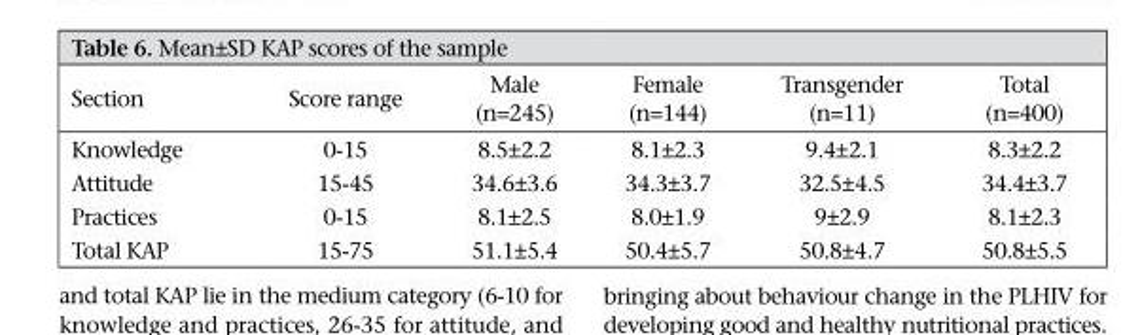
<table><thead><tr><td>Section</td><td>Score range</td><td>Male (n=245)</td><td>Female (n=144)</td><td>Transgender (n=11)</td><td>Total (n=400)</td></tr></thead><tbody><tr><td>Knowledge</td><td>0-15</td><td>8.5±2.2</td><td>8.1±2.3</td><td>9.4±2.1</td><td>8.3±2.2</td></tr><tr><td>Attitude</td><td>15-45</td><td>34.6±3.6</td><td>34.3±3.7</td><td>32.5±4.5</td><td>34.4±3.7</td></tr><tr><td>Practices</td><td>0-15</td><td>8.1±2.5</td><td>8.0±1.9</td><td>9±2.9</td><td>8.1±2.3</td></tr><tr><td>Total KAP</td><td>15-75</td><td>51.1±5.4</td><td>50.4±5.7</td><td>50.8±4.7</td><td>50.8±5.5</td></tr></tbody></table>